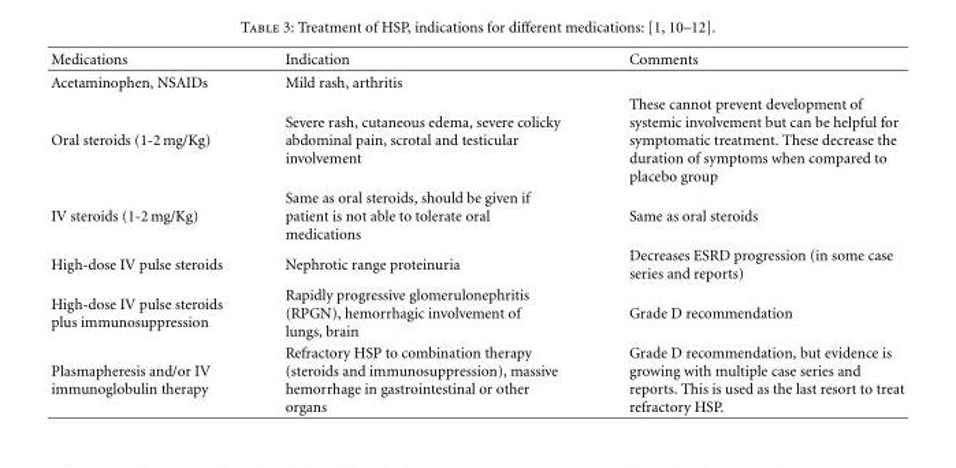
<table><thead><tr><td>Medications</td><td>Indication</td><td>Comments</td></tr></thead><tbody><tr><td>Acetaminophen, NSAIDs</td><td>Mild rash, arthritis</td><td></td></tr><tr><td>Oral steroids (1-2 mg/Kg)</td><td>Severe rash, cutaneous edema, severe colicky abdominal pain, scrotal and testicular involvement</td><td>These cannot prevent development of systemic involvement but can be helpful for symptomatic treatment. These decrease the duration of symptoms when compared to placebo group</td></tr><tr><td>IV steroids (1-2 mg/Kg)</td><td>Same as oral steroids, should be given if patient is not able to tolerate oral medications</td><td>Same as oral steroids</td></tr><tr><td>High-dose IV pulse steroids</td><td>Nephrotic range proteinuria</td><td>Decreases ESRD progression (in some case series and reports)</td></tr><tr><td>High-dose IV pulse steroids plus immunosuppression</td><td>Rapidly progressive glomerulonephritis (RPGN), hemorrhagic involvement of lungs, brain</td><td>Grade D recommendation</td></tr><tr><td>Plasmapheresis and/or IV immunoglobulin therapy</td><td>Refractory HSP to combination therapy (steroids and immunosuppression), massive hemorrhage in gastrointestinal or other organs</td><td>Grade D recommendation, but evidence is growing with multiple case series and reports. This is used as the last resort to treat refractory HSP.</td></tr></tbody></table>